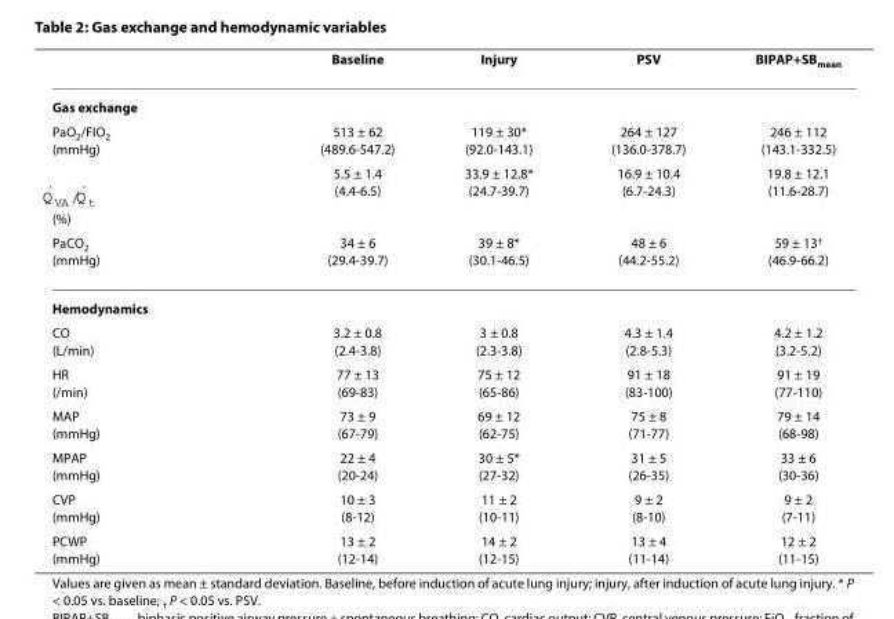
<table><thead><tr><td></td><td>Baseline</td><td>Injury</td><td>PSV</td><td>BIPAP+SB<sub>mean</sub></td></tr></thead><tbody><tr><td colspan="5">Gas exchange</td></tr><tr><td>PaO<sub>2</sub>/FIO<sub>2</sub> (mmHg)</td><td>513 ± 62 (489.6-547.2)</td><td>119 ± 30* (92.0-143.1)</td><td>264 ± 127 (136.0-378.7)</td><td>246 ± 112 (143.1-332.5)</td></tr><tr><td>(%) � /Q VA t</td><td>5.5 ± 1.4 (4.4-6.5)</td><td>33.9 ± 12.8* (24.7-39.7)</td><td>16.9 ± 10.4 (6.7-24.3)</td><td>19.8 ± 12.1 (11.6-28.7)</td></tr><tr><td>PaCO<sub>2</sub> (mmHg)</td><td>34 ± 6 (29.4-39.7)</td><td>39 ± 8* (30.1-46.5)</td><td>48 ± 6 (44.2-55.2)</td><td>59 ± 13<sup>†</sup> (46.9-66.2)</td></tr><tr><td colspan="5">Hemodynamics</td></tr><tr><td>CO (L/min)</td><td>3.2 ± 0.8 (2.4-3.8)</td><td>3 ± 0.8 (2.3-3.8)</td><td>4.3 ± 1.4 (2.8-5.3)</td><td>4.2 ± 1.2 (3.2-5.2)</td></tr><tr><td>HR (/min)</td><td>77 ± 13 (69-83)</td><td>75 ± 12 (65-86)</td><td>91 ± 18 (83-100)</td><td>91 ± 19 (77-110)</td></tr><tr><td>MAP (mmHg)</td><td>73 ± 9 (67-79)</td><td>69 ± 12 (62-75)</td><td>75 ± 8 (71-77)</td><td>79 ± 14 (68-98)</td></tr><tr><td>MPAP (mmHg)</td><td>22 ± 4 (20-24)</td><td>30 ± 5* (27-32)</td><td>31 ± 5 (26-35)</td><td>33 ± 6 (30-36)</td></tr><tr><td>CVP (mmHg)</td><td>10 ± 3 (8-12)</td><td>11 ± 2 (10-11)</td><td>9 ± 2 (8-10)</td><td>9 ± 2 (7-11)</td></tr><tr><td>PCWP (mmHg)</td><td>13 ± 2 (12-14)</td><td>14 ± 2 (12-15)</td><td>13 ± 4 (11-14)</td><td>12 ± 2 (11-15)</td></tr></tbody></table>